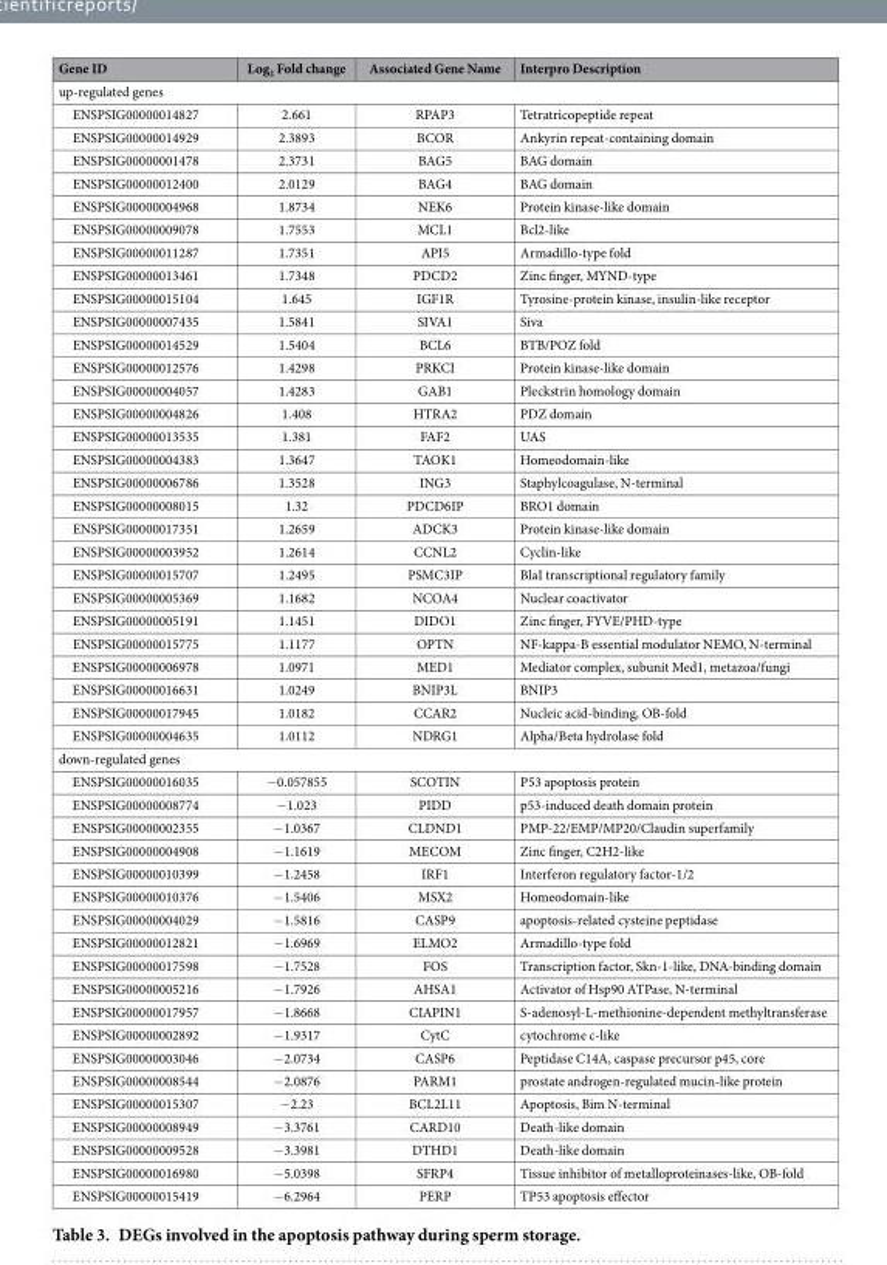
<table><thead><tr><td>Gene ID</td><td>Log<sub>2</sub> Fold change</td><td>Associated Gene Name</td><td>Interpro Description</td></tr></thead><tbody><tr><td colspan="4">up-regulated genes</td></tr><tr><td>ENSPSIG00000014827</td><td>2.661</td><td>RPAP3</td><td>Tetratricopeptide repeat</td></tr><tr><td>ENSPSIG00000014929</td><td>2.3893</td><td>BCOR</td><td>Ankyrin repeat-containing domain</td></tr><tr><td>ENSPSIG00000001478</td><td>2.3731</td><td>BAG5</td><td>BAG domain</td></tr><tr><td>ENSPSIG00000012400</td><td>2.0129</td><td>BAG4</td><td>BAG domain</td></tr><tr><td>ENSPSIG00000004968</td><td>1.8734</td><td>NEK6</td><td>Protein kinase-like domain</td></tr><tr><td>ENSPSIG00000009078</td><td>1.7553</td><td>MCL1</td><td>Bcl2-like</td></tr><tr><td>ENSPSIG00000011287</td><td>1.7351</td><td>API5</td><td>Armadillo-type fold</td></tr><tr><td>ENSPSIG00000013461</td><td>1.7348</td><td>PDCD2</td><td>Zinc finger, MYND-type</td></tr><tr><td>ENSPSIG00000015104</td><td>1.645</td><td>IGF1R</td><td>Tyrosine-protein kinase, insulin-like receptor</td></tr><tr><td>ENSPSIG00000007435</td><td>1.5841</td><td>SIVA1</td><td>Siva</td></tr><tr><td>ENSPSIG00000014529</td><td>1.5404</td><td>BCL6</td><td>BTB/POZ fold</td></tr><tr><td>ENSPSIG00000012576</td><td>1.4298</td><td>PRKCI</td><td>Protein kinase-like domain</td></tr><tr><td>ENSPSIG00000004057</td><td>1.4283</td><td>GAB1</td><td>Pleckstrin homology domain</td></tr><tr><td>ENSPSIG00000004826</td><td>1.408</td><td>HTRA2</td><td>PDZ domain</td></tr><tr><td>ENSPSIG00000013535</td><td>1.381</td><td>FAF2</td><td>UAS</td></tr><tr><td>ENSPSIG00000004383</td><td>1.3647</td><td>TAOK1</td><td>Homeodomain-like</td></tr><tr><td>ENSPSIG00000006786</td><td>1.3528</td><td>ING3</td><td>Staphylcoagulase, N-terminal</td></tr><tr><td>ENSPSIG00000008015</td><td>1.32</td><td>PDCD6IP</td><td>BRO1 domain</td></tr><tr><td>ENSPSIG00000017351</td><td>1.2659</td><td>ADCK3</td><td>Protein kinase-like domain</td></tr><tr><td>ENSPSIG00000003952</td><td>1.2614</td><td>CCNL2</td><td>Cyclin-like</td></tr><tr><td>ENSPSIG00000015707</td><td>1.2495</td><td>PSMC3IP</td><td>BlaI transcriptional regulatory family</td></tr><tr><td>ENSPSIG00000005369</td><td>1.1682</td><td>NCOA4</td><td>Nuclear coactivator</td></tr><tr><td>ENSPSIG00000005191</td><td>1.1451</td><td>DIDO1</td><td>Zinc finger, FYVE/PHD-type</td></tr><tr><td>ENSPSIG00000015775</td><td>1.1177</td><td>OPTN</td><td>NF-kappa-B essential modulator NEMO, N-terminal</td></tr><tr><td>ENSPSIG00000006978</td><td>1.0971</td><td>MED1</td><td>Mediator complex, subunit Med1, metazoa/fungi</td></tr><tr><td>ENSPSIG00000016631</td><td>1.0249</td><td>BNIP3L</td><td>BNIP3</td></tr><tr><td>ENSPSIG00000017945</td><td>1.0182</td><td>CCAR2</td><td>Nucleic acid-binding, OB-fold</td></tr><tr><td>ENSPSIG00000004635</td><td>1.0112</td><td>NDRG1</td><td>Alpha/Beta hydrolase fold</td></tr><tr><td colspan="4">down-regulated genes</td></tr><tr><td>ENSPSIG00000016035</td><td>− 0.057855</td><td>SCOTIN</td><td>P53 apoptosis protein</td></tr><tr><td>ENSPSIG00000008774</td><td>− 1.023</td><td>PIDD</td><td>p53-induced death domain protein</td></tr><tr><td>ENSPSIG00000002355</td><td>− 1.0367</td><td>CLDND1</td><td>PMP-22/EMP/MP20/Claudin superfamily</td></tr><tr><td>ENSPSIG00000004908</td><td>− 1.1619</td><td>MECOM</td><td>Zinc finger, C2H2-like</td></tr><tr><td>ENSPSIG00000010399</td><td>− 1.2458</td><td>IRF1</td><td>Interferon regulatory factor-1/2</td></tr><tr><td>ENSPSIG00000010376</td><td>− 1.5406</td><td>MSX2</td><td>Homeodomain-like</td></tr><tr><td>ENSPSIG00000004029</td><td>− 1.5816</td><td>CASP9</td><td>apoptosis-related cysteine peptidase</td></tr><tr><td>ENSPSIG00000012821</td><td>− 1.6969</td><td>ELMO2</td><td>Armadillo-type fold</td></tr><tr><td>ENSPSIG00000017598</td><td>− 1.7528</td><td>FOS</td><td>Transcription factor, Skn-1-like, DNA-binding domain</td></tr><tr><td>ENSPSIG00000005216</td><td>− 1.7926</td><td>AHSA1</td><td>Activator of Hsp90 ATPase, N-terminal</td></tr><tr><td>ENSPSIG00000017957</td><td>− 1.8668</td><td>CIAPIN1</td><td>S-adenosyl-L-methionine-dependent methyltransferase</td></tr><tr><td>ENSPSIG00000002892</td><td>− 1.9317</td><td>CytC</td><td>cytochrome c-like</td></tr><tr><td>ENSPSIG00000003046</td><td>− 2.0734</td><td>CASP6</td><td>Peptidase C14A, caspase precursor p45, core</td></tr><tr><td>ENSPSIG00000008544</td><td>− 2.0876</td><td>PARM1</td><td>prostate androgen-regulated mucin-like protein</td></tr><tr><td>ENSPSIG00000015307</td><td>− 2.23</td><td>BCL2L11</td><td>Apoptosis, Bim N-terminal</td></tr><tr><td>ENSPSIG00000008949</td><td>− 3.3761</td><td>CARD10</td><td>Death-like domain</td></tr><tr><td>ENSPSIG00000009528</td><td>− 3.3981</td><td>DTHD1</td><td>Death-like domain</td></tr><tr><td>ENSPSIG00000016980</td><td>− 5.0398</td><td>SFRP4</td><td>Tissue inhibitor of metalloproteinases-like, OB-fold</td></tr><tr><td>ENSPSIG00000015419</td><td>− 6.2964</td><td>PERP</td><td>TP53 apoptosis effector</td></tr></tbody></table>